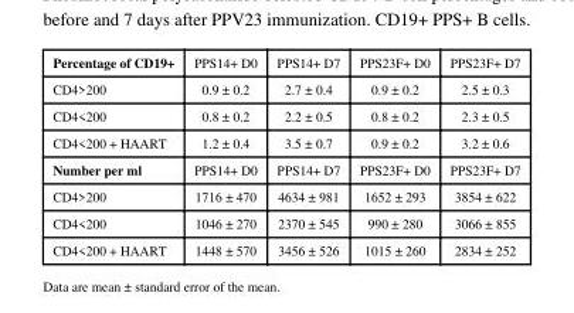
<table><tbody><tr><td>Percentage of CD19+</td><td>PPS14+ D0</td><td>PPS14+ D7</td><td>PPS23F+ D0</td><td>PPS23F+ D7</td></tr><tr><td>CD4&gt;200</td><td>0.9 ± 0.2</td><td>2.7 ± 0.4</td><td>0.9 ± 0.2</td><td>2.5 ± 0.3</td></tr><tr><td>CD4&lt;200</td><td>0.8 ± 0.2</td><td>2.2 ± 0.5</td><td>0.8 ± 0.2</td><td>2.3 ± 0.5</td></tr><tr><td>CD4&lt;200 + HAART</td><td>1.2 ± 0.4</td><td>3.5 ± 0.7</td><td>0.9 ± 0.2</td><td>3.2 ± 0.6</td></tr><tr><td>Number per ml</td><td>PPS14+ D0</td><td>PPS14+ D7</td><td>PPS23F+ D0</td><td>PPS23F+ D7</td></tr><tr><td>CD4&gt;200</td><td>1716 ± 470</td><td>4634 ± 981</td><td>1652 ± 293</td><td>3854 ± 622</td></tr><tr><td>CD4&lt;200</td><td>1046 ± 270</td><td>2370 ± 545</td><td>990 ± 280</td><td>3066 ± 855</td></tr><tr><td>CD4&lt;200 + HAART</td><td>1448 ± 570</td><td>3456 ± 526</td><td>1015 ± 260</td><td>2834 ± 252</td></tr></tbody></table>